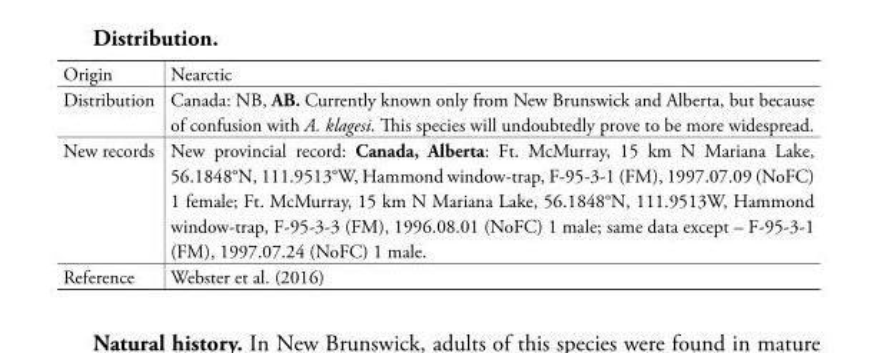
<table><tbody><tr><td>Origin</td><td>Nearctic</td></tr><tr><td>Distribution</td><td>Canada: NB, AB. Currently known only from New Brunswick and Alberta, but because of confusion with A. klagesi. This species will undoubtedly prove to be more widespread.</td></tr><tr><td>New records</td><td>New provincial record: Canada, Alberta: Ft. McMurray, 15 km N Mariana Lake, 56.1848°N, 111.9513°W, Hammond window-trap, F-95-3-1 (FM), 1997.07.09 (NoFC) 1 female; Ft. McMurray, 15 km N Mariana Lake, 56.1848°N, 111.9513W, Hammond window-trap, F-95-3-3 (FM), 1996.08.01 (NoFC) 1 male; same data except – F-95-3-1 (FM), 1997.07.24 (NoFC) 1 male.</td></tr><tr><td>Reference</td><td>Webster et al. (2016)</td></tr></tbody></table>